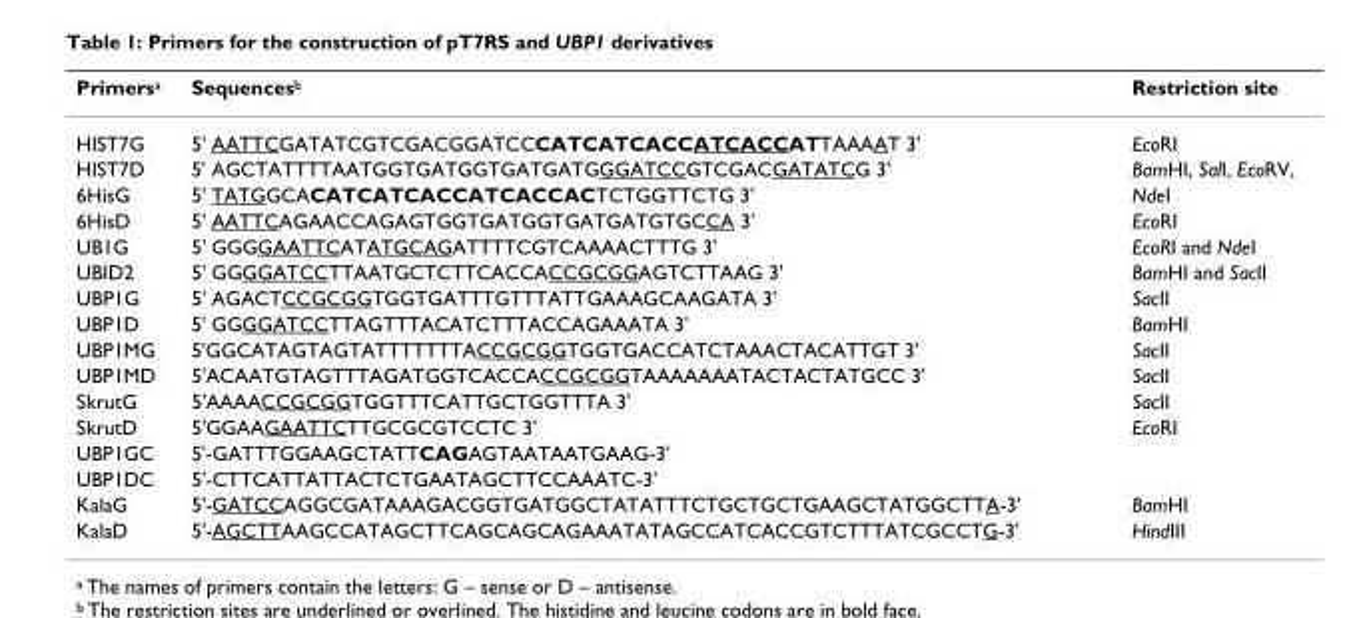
<table><thead><tr><td>Primers<sup>a</sup></td><td>Sequences<sup>b</sup></td><td>Restriction site</td></tr></thead><tbody><tr><td>HIST7G</td><td>5&#x27; AATTCGATATCGTCGACGGATCCCATCATCACCATCACCATTAAAAT 3&#x27;</td><td>EcoRI</td></tr><tr><td>HIST7D</td><td>5&#x27; AGCTATTTTAATGGTGATGGTGATGATGGGATCCGTCGACGATATCG 3&#x27;</td><td>BamHI, SalI, EcoRV,</td></tr><tr><td>6HisG</td><td>5&#x27; TATGGCACATCATCACCATCACCACTCTGGTTCTG 3&#x27;</td><td>NdeI</td></tr><tr><td>6HisD</td><td>5&#x27; AATTCAGAACCAGAGTGGTGATGGTGATGATGTGCCA 3&#x27;</td><td>EcoRI</td></tr><tr><td>UB1G</td><td>5&#x27; GGGGAATTCATATGCAGATTTTCGTCAAAACTTTG 3&#x27;</td><td>EcoRI and NdeI</td></tr><tr><td>UBID2</td><td>5&#x27; GGGGATCCTTAATGCTCTTCACCACCGCGGAGTCTTAAG 3&#x27;</td><td>BamHI and SacII</td></tr><tr><td>UBP1G</td><td>5&#x27; AGACTCCGCGGTGGTGATTTGTTTATTGAAAGCAAGATA 3&#x27;</td><td>SacII</td></tr><tr><td>UBP1D</td><td>5&#x27; GGGGATCCTTAGTTTACATCTTTACCAGAAATA 3&#x27;</td><td>BamHI</td></tr><tr><td>UBP1MG</td><td>5&#x27;GGCATAGTAGTATTTTTTTACCGCGGTGGTGACCATCTAAACTACATTGT 3&#x27;</td><td>SacII</td></tr><tr><td>UBP1MD</td><td>5&#x27;ACAATGTAGTTTAGATGGTCACCACCGCGGTAAAAAAATACTACTATGCC 3&#x27;</td><td>SacII</td></tr><tr><td>SkrutG</td><td>5&#x27;AAAACCGCGGTGGTTTCATTGCTGGTTTA 3&#x27;</td><td>SacII</td></tr><tr><td>SkrutD</td><td>5&#x27;GGAAGAATTCTTGCGCGTCCTC 3&#x27;</td><td>EcoRI</td></tr><tr><td>UBP1GC</td><td>5&#x27;-GATTTGGAAGCTATTCAGAGTAATAATGAAG-3&#x27;</td><td></td></tr><tr><td>UBP1DC</td><td>5&#x27;-CTTCATTATTACTCTGAATAGCTTCCAAATC-3&#x27;</td><td></td></tr><tr><td>KalaG</td><td>5&#x27;-GATCCAGGCGATAAAGACGGTGATGGCTATATTTCTGCTGCTGAAGCTATGGCTTA-3&#x27;</td><td>BamHI</td></tr><tr><td>KalaD</td><td>5&#x27;-AGCTTAAGCCATAGCTTCAGCAGCAGAAATATAGCCATCACCGTCTTTATCGCCTG-3&#x27;</td><td>HindIII</td></tr></tbody></table>